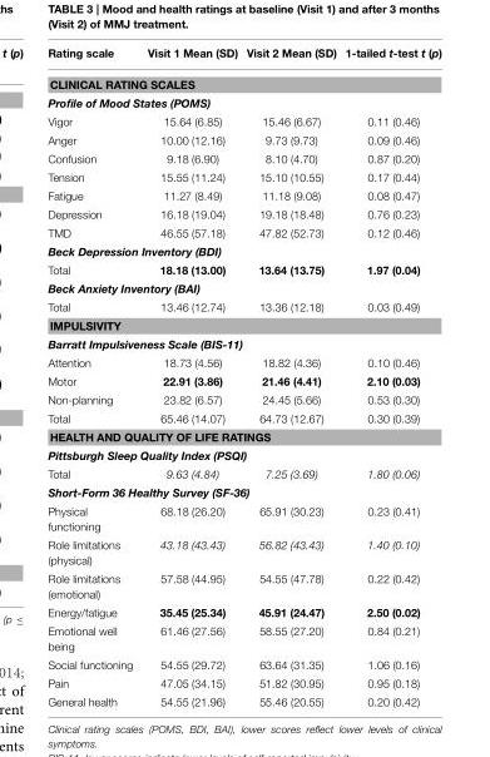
<table><thead><tr><td>Rating scale</td><td>Visit 1 Mean (SD)</td><td>Visit 2 Mean (SD)</td><td>1-tailed t-test t (p)</td></tr></thead><tbody><tr><td colspan="4">CLINICAL RATING SCALES</td></tr><tr><td colspan="4">Profile of Mood States (POMS)</td></tr><tr><td>Vigor</td><td>15.64 (6.85)</td><td>15.46 (6.67)</td><td>0.11 (0.46)</td></tr><tr><td>Anger</td><td>10.00 (12.16)</td><td>9.73 (9.73)</td><td>0.09 (0.46)</td></tr><tr><td>Confusion</td><td>9.18 (6.90)</td><td>8.10 (4.70)</td><td>0.87 (0.20)</td></tr><tr><td>Tension</td><td>15.55 (11.24)</td><td>15.10 (10.55)</td><td>0.17 (0.44)</td></tr><tr><td>Fatigue</td><td>11.27 (8.49)</td><td>11.18 (9.08)</td><td>0.08 (0.47)</td></tr><tr><td>Depression</td><td>16.18 (19.04)</td><td>19.18 (18.48)</td><td>0.76 (0.23)</td></tr><tr><td>TMD</td><td>46.55 (57.18)</td><td>47.82 (52.73)</td><td>0.12 (0.46)</td></tr><tr><td colspan="4">Beck Depression Inventory (BDI)</td></tr><tr><td>Total</td><td>18.18 (13.00)</td><td>13.64 (13.75)</td><td>1.97 (0.04)</td></tr><tr><td colspan="4">Beck Anxiety Inventory (BAI)</td></tr><tr><td>Total</td><td>13.46 (12.74)</td><td>13.36 (12.18)</td><td>0.03 (0.49)</td></tr><tr><td colspan="4">IMPULSIVITY</td></tr><tr><td colspan="4">Barratt Impulsiveness Scale (BIS-11)</td></tr><tr><td>Attention</td><td>18.73 (4.56)</td><td>18.82 (4.36)</td><td>0.10 (0.46)</td></tr><tr><td>Motor</td><td>22.91 (3.86)</td><td>21.46 (4.41)</td><td>2.10 (0.03)</td></tr><tr><td>Non-planning</td><td>23.82 (6.57)</td><td>24.45 (5.66)</td><td>0.53 (0.30)</td></tr><tr><td>Total</td><td>65.46 (14.07)</td><td>64.73 (12.67)</td><td>0.30 (0.39)</td></tr><tr><td colspan="4">HEALTH AND QUALITY OF LIFE RATINGS</td></tr><tr><td colspan="4">Pittsburgh Sleep Quality Index (PSQI)</td></tr><tr><td>Total</td><td>9.63 (4.84)</td><td>7.25 (3.69)</td><td>1.80 (0.06)</td></tr><tr><td colspan="4">Short-Form 36 Healthy Survey (SF-36)</td></tr><tr><td>Physical functioning</td><td>68.18 (26.20)</td><td>65.91 (30.23)</td><td>0.23 (0.41)</td></tr><tr><td>Role limitations (physical)</td><td>43.18 (43.43)</td><td>56.82 (43.43)</td><td>1.40 (0.10)</td></tr><tr><td>Role limitations (emotional)</td><td>57.58 (44.95)</td><td>54.55 (47.78)</td><td>0.22 (0.42)</td></tr><tr><td>Energy/fatigue</td><td>35.45 (25.34)</td><td>45.91 (24.47)</td><td>2.50 (0.02)</td></tr><tr><td>Emotional well being</td><td>61.46 (27.56)</td><td>58.55 (27.20)</td><td>0.84 (0.21)</td></tr><tr><td>Social functioning</td><td>54.55 (29.72)</td><td>63.64 (31.35)</td><td>1.06 (0.16)</td></tr><tr><td>Pain</td><td>47.05 (34.15)</td><td>51.82 (30.95)</td><td>0.95 (0.18)</td></tr><tr><td>General health</td><td>54.55 (21.96)</td><td>55.46 (20.55)</td><td>0.20 (0.42)</td></tr></tbody></table>